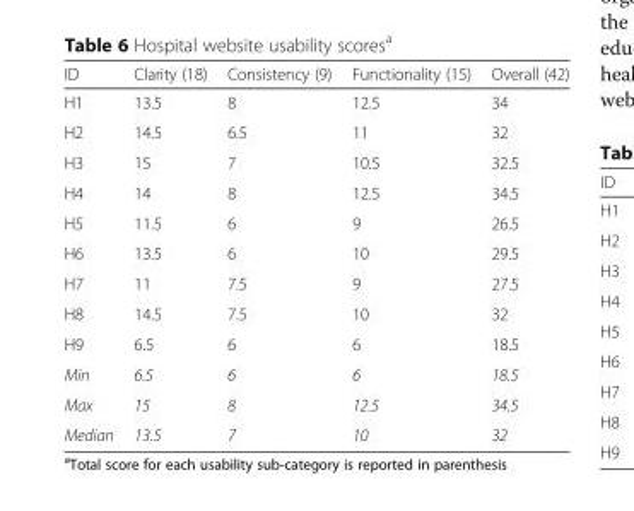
<table><thead><tr><td>ID</td><td>Clarity (18)</td><td>Consistency (9)</td><td>Functionality (15)</td><td>Overall (42)</td></tr></thead><tbody><tr><td>H1</td><td>13.5</td><td>8</td><td>12.5</td><td>34</td></tr><tr><td>H2</td><td>14.5</td><td>6.5</td><td>11</td><td>32</td></tr><tr><td>H3</td><td>15</td><td>7</td><td>10.5</td><td>32.5</td></tr><tr><td>H4</td><td>14</td><td>8</td><td>12.5</td><td>34.5</td></tr><tr><td>H5</td><td>11.5</td><td>6</td><td>9</td><td>26.5</td></tr><tr><td>H6</td><td>13.5</td><td>6</td><td>10</td><td>29.5</td></tr><tr><td>H7</td><td>11</td><td>7.5</td><td>9</td><td>27.5</td></tr><tr><td>H8</td><td>14.5</td><td>7.5</td><td>10</td><td>32</td></tr><tr><td>H9</td><td>6.5</td><td>6</td><td>6</td><td>18.5</td></tr><tr><td>Min</td><td>6.5</td><td>6</td><td>6</td><td>18.5</td></tr><tr><td>Max</td><td>15</td><td>8</td><td>12.5</td><td>34.5</td></tr><tr><td>Median</td><td>13.5</td><td>7</td><td>10</td><td>32</td></tr></tbody></table>